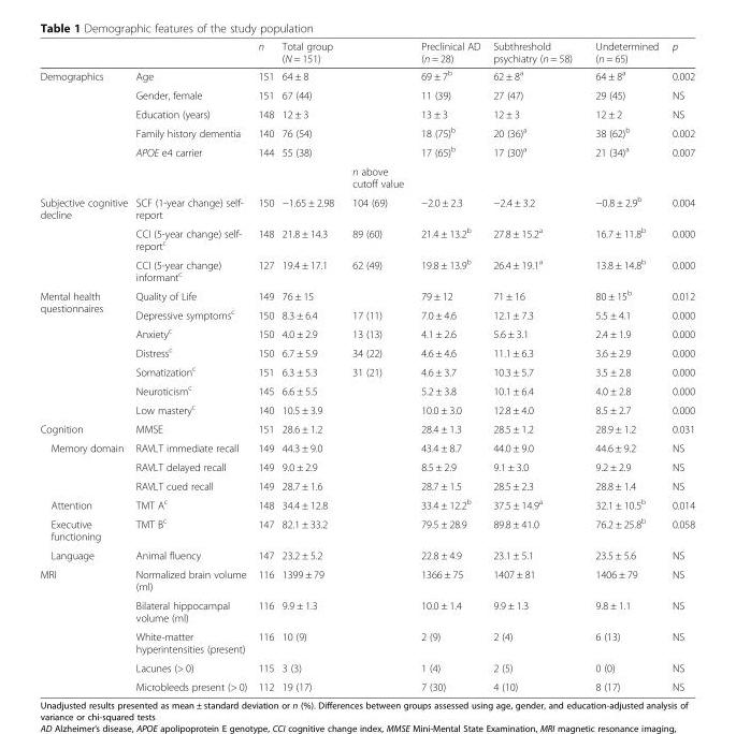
<table><thead><tr><td></td><td></td><td>n</td><td>Total group (N = 151)</td><td></td><td>Preclinical AD (n = 28)</td><td>Subthreshold psychiatry (n = 58)</td><td>Undetermined (n = 65)</td><td>p</td></tr></thead><tbody><tr><td rowspan="6">Demographics</td><td>Age</td><td>151</td><td>64 ± 8</td><td></td><td>69 ± 7<sup>b</sup></td><td>62 ± 8<sup>a</sup></td><td>64 ± 8<sup>a</sup></td><td>0.002</td></tr><tr><td>Gender, female</td><td>151</td><td>67 (44)</td><td></td><td>11 (39)</td><td>27 (47)</td><td>29 (45)</td><td>NS</td></tr><tr><td>Education (years)</td><td>148</td><td>12 ± 3</td><td></td><td>13 ± 3</td><td>12 ± 3</td><td>12 ± 2</td><td>NS</td></tr><tr><td>Family history dementia</td><td>140</td><td>76 (54)</td><td></td><td>18 (75)<sup>b</sup></td><td>20 (36)<sup>a</sup></td><td>38 (62)<sup>b</sup></td><td>0.002</td></tr><tr><td>APOE e4 carrier</td><td>144</td><td>55 (38)</td><td></td><td>17 (65)<sup>b</sup></td><td>17 (30)<sup>a</sup></td><td>21 (34)<sup>a</sup></td><td>0.007</td></tr><tr><td></td><td></td><td></td><td>n above cutoff value</td><td></td><td></td><td></td><td></td></tr><tr><td rowspan="3">Subjective cognitive decline</td><td>SCF (1-year change) self- report</td><td>150</td><td>−1.65 ± 2.98</td><td>104 (69)</td><td>−2.0 ± 2.3</td><td>−2.4 ± 3.2</td><td>−0.8 ± 2.9<sup>b</sup></td><td>0.004</td></tr><tr><td>CCI (5-year change) self- report<sup>c</sup></td><td>148</td><td>21.8 ± 14.3</td><td>89 (60)</td><td>21.4 ± 13.2<sup>b</sup></td><td>27.8 ± 15.2<sup>a</sup></td><td>16.7 ± 11.8<sup>b</sup></td><td>0.000</td></tr><tr><td>CCI (5-year change) informant<sup>c</sup></td><td>127</td><td>19.4 ± 17.1</td><td>62 (49)</td><td>19.8 ± 13.9<sup>b</sup></td><td>26.4 ± 19.1<sup>a</sup></td><td>13.8 ± 14.8<sup>b</sup></td><td>0.000</td></tr><tr><td rowspan="7">Mental health questionnaires</td><td>Quality of Life</td><td>149</td><td>76 ± 15</td><td></td><td>79 ± 12</td><td>71 ± 16</td><td>80 ± 15<sup>b</sup></td><td>0.012</td></tr><tr><td>Depressive symptoms<sup>c</sup></td><td>150</td><td>8.3 ± 6.4</td><td>17 (11)</td><td>7.0 ± 4.6</td><td>12.1 ± 7.3</td><td>5.5 ± 4.1</td><td>0.000</td></tr><tr><td>Anxiety<sup>c</sup></td><td>150</td><td>4.0 ± 2.9</td><td>13 (13)</td><td>4.1 ± 2.6</td><td>5.6 ± 3.1</td><td>2.4 ± 1.9</td><td>0.000</td></tr><tr><td>Distress<sup>c</sup></td><td>150</td><td>6.7 ± 5.9</td><td>34 (22)</td><td>4.6 ± 4.6</td><td>11.1 ± 6.3</td><td>3.6 ± 2.9</td><td>0.000</td></tr><tr><td>Somatization<sup>c</sup></td><td>151</td><td>6.3 ± 5.3</td><td>31 (21)</td><td>4.6 ± 3.7</td><td>10.3 ± 5.7</td><td>3.5 ± 2.8</td><td>0.000</td></tr><tr><td>Neuroticism<sup>c</sup></td><td>145</td><td>6.6 ± 5.5</td><td></td><td>5.2 ± 3.8</td><td>10.1 ± 6.4</td><td>4.0 ± 2.8</td><td>0.000</td></tr><tr><td>Low mastery<sup>c</sup></td><td>140</td><td>10.5 ± 3.9</td><td></td><td>10.0 ± 3.0</td><td>12.8 ± 4.0</td><td>8.5 ± 2.7</td><td>0.000</td></tr><tr><td>Cognition</td><td>MMSE</td><td>151</td><td>28.6 ± 1.2</td><td></td><td>28.4 ± 1.3</td><td>28.5 ± 1.2</td><td>28.9 ± 1.2</td><td>0.031</td></tr><tr><td rowspan="3">Memory domain</td><td>RAVLT immediate recall</td><td>149</td><td>44.3 ± 9.0</td><td></td><td>43.4 ± 8.7</td><td>44.0 ± 9.0</td><td>44.6 ± 9.2</td><td>NS</td></tr><tr><td>RAVLT delayed recall</td><td>149</td><td>9.0 ± 2.9</td><td></td><td>8.5 ± 2.9</td><td>9.1 ± 3.0</td><td>9.2 ± 2.9</td><td>NS</td></tr><tr><td>RAVLT cued recall</td><td>149</td><td>28.7 ± 1.6</td><td></td><td>28.7 ± 1.5</td><td>28.5 ± 2.3</td><td>28.8 ± 1.4</td><td>NS</td></tr><tr><td>Attention</td><td>TMT A<sup>c</sup></td><td>148</td><td>34.4 ± 12.8</td><td></td><td>33.4 ± 12.2<sup>b</sup></td><td>37.5 ± 14.9<sup>a</sup></td><td>32.1 ± 10.5<sup>b</sup></td><td>0.014</td></tr><tr><td>Executive functioning</td><td>TMT B<sup>c</sup></td><td>147</td><td>82.1 ± 33.2</td><td></td><td>79.5 ± 28.9</td><td>89.8 ± 41.0</td><td>76.2 ± 25.8<sup>b</sup></td><td>0.058</td></tr><tr><td>Language</td><td>Animal fluency</td><td>147</td><td>23.2 ± 5.2</td><td></td><td>22.8 ± 4.9</td><td>23.1 ± 5.1</td><td>23.5 ± 5.6</td><td>NS</td></tr><tr><td rowspan="5">MRI</td><td>Normalized brain volume (ml)</td><td>116</td><td>1399 ± 79</td><td></td><td>1366 ± 75</td><td>1407 ± 81</td><td>1406 ± 79</td><td>NS</td></tr><tr><td>Bilateral hippocampal volume (ml)</td><td>116</td><td>9.9 ± 1.3</td><td></td><td>10.0 ± 1.4</td><td>9.9 ± 1.3</td><td>9.8 ± 1.1</td><td>NS</td></tr><tr><td>White-matter hyperintensities (present)</td><td>116</td><td>10 (9)</td><td></td><td>2 (9)</td><td>2 (4)</td><td>6 (13)</td><td>NS</td></tr><tr><td>Lacunes (&gt; 0)</td><td>115</td><td>3 (3)</td><td></td><td>1 (4)</td><td>2 (5)</td><td>0 (0)</td><td>NS</td></tr><tr><td>Microbleeds present (&gt; 0)</td><td>112</td><td>19 (17)</td><td></td><td>7 (30)</td><td>4 (10)</td><td>8 (17)</td><td>NS</td></tr></tbody></table>